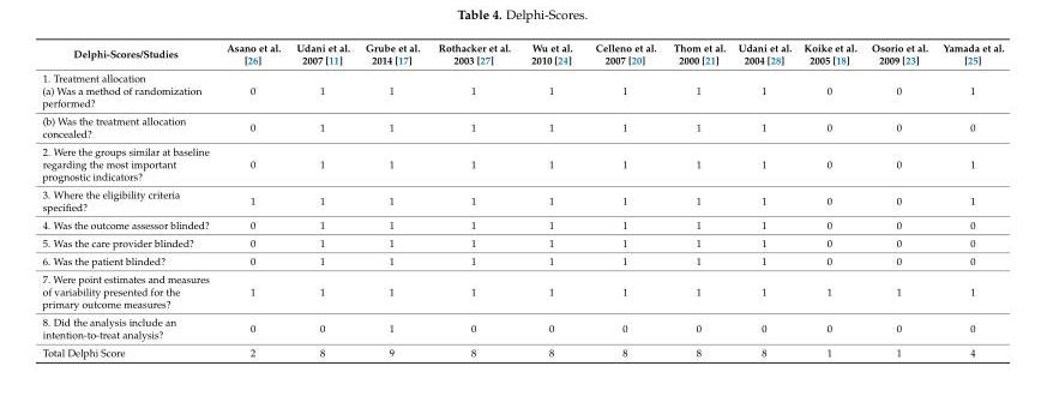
<table><thead><tr><td>Delphi-Scores/Studies</td><td>Asano et al. [26]</td><td>Udani et al. 2007 [11]</td><td>Grube et al. 2014 [17]</td><td>Rothacker et al. 2003 [27]</td><td>Wu et al. 2010 [24]</td><td>Celleno et al. 2007 [20]</td><td>Thom et al. 2000 [21]</td><td>Udani et al. 2004 [28]</td><td>Koike et al. 2005 [18]</td><td>Osorio et al. 2009 [23]</td><td>Yamada et al. [25]</td></tr></thead><tbody><tr><td>1. Treatment allocation (a) Was a method of randomization performed?</td><td>0</td><td>1</td><td>1</td><td>1</td><td>1</td><td>1</td><td>1</td><td>1</td><td>0</td><td>0</td><td>1</td></tr><tr><td>(b) Was the treatment allocation concealed?</td><td>0</td><td>1</td><td>1</td><td>1</td><td>1</td><td>1</td><td>1</td><td>1</td><td>0</td><td>0</td><td>0</td></tr><tr><td>2. Were the groups similar at baseline regarding the most important prognostic indicators?</td><td>0</td><td>1</td><td>1</td><td>1</td><td>1</td><td>1</td><td>1</td><td>1</td><td>0</td><td>0</td><td>1</td></tr><tr><td>3. Where the eligibility criteria specified?</td><td>1</td><td>1</td><td>1</td><td>1</td><td>1</td><td>1</td><td>1</td><td>1</td><td>0</td><td>0</td><td>1</td></tr><tr><td>4. Was the outcome assessor blinded?</td><td>0</td><td>1</td><td>1</td><td>1</td><td>1</td><td>1</td><td>1</td><td>1</td><td>0</td><td>0</td><td>0</td></tr><tr><td>5. Was the care provider blinded?</td><td>0</td><td>1</td><td>1</td><td>1</td><td>1</td><td>1</td><td>1</td><td>1</td><td>0</td><td>0</td><td>0</td></tr><tr><td>6. Was the patient blinded?</td><td>0</td><td>1</td><td>1</td><td>1</td><td>1</td><td>1</td><td>1</td><td>1</td><td>0</td><td>0</td><td>0</td></tr><tr><td>7. Were point estimates and measures of variability presented for the primary outcome measures?</td><td>1</td><td>1</td><td>1</td><td>1</td><td>1</td><td>1</td><td>1</td><td>1</td><td>1</td><td>1</td><td>1</td></tr><tr><td>8. Did the analysis include an intention-to-treat analysis?</td><td>0</td><td>0</td><td>1</td><td>0</td><td>0</td><td>0</td><td>0</td><td>0</td><td>0</td><td>0</td><td>0</td></tr><tr><td>Total Delphi Score</td><td>2</td><td>8</td><td>9</td><td>8</td><td>8</td><td>8</td><td>8</td><td>8</td><td>1</td><td>1</td><td>4</td></tr></tbody></table>